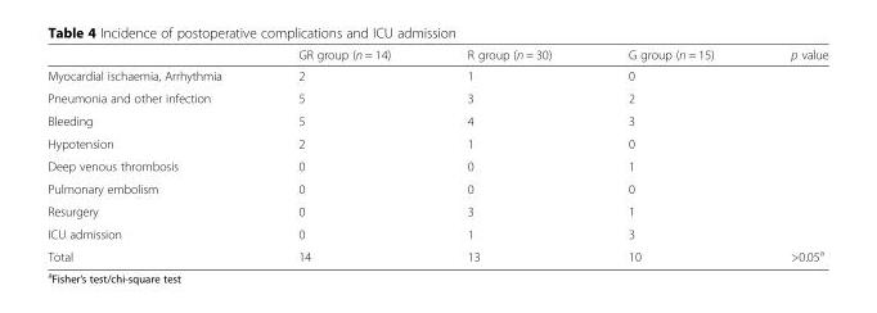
<table><thead><tr><td></td><td>GR group (n = 14)</td><td>R group (n = 30)</td><td>G group (n = 15)</td><td>p value</td></tr></thead><tbody><tr><td>Myocardial ischaemia, Arrhythmia</td><td>2</td><td>1</td><td>0</td><td></td></tr><tr><td>Pneumonia and other infection</td><td>5</td><td>3</td><td>2</td><td></td></tr><tr><td>Bleeding</td><td>5</td><td>4</td><td>3</td><td></td></tr><tr><td>Hypotension</td><td>2</td><td>1</td><td>0</td><td></td></tr><tr><td>Deep venous thrombosis</td><td>0</td><td>0</td><td>1</td><td></td></tr><tr><td>Pulmonary embolism</td><td>0</td><td>0</td><td>0</td><td></td></tr><tr><td>Resurgery</td><td>0</td><td>3</td><td>1</td><td></td></tr><tr><td>ICU admission</td><td>0</td><td>1</td><td>3</td><td></td></tr><tr><td>Total</td><td>14</td><td>13</td><td>10</td><td>&gt;0.05<sup>a</sup></td></tr></tbody></table>